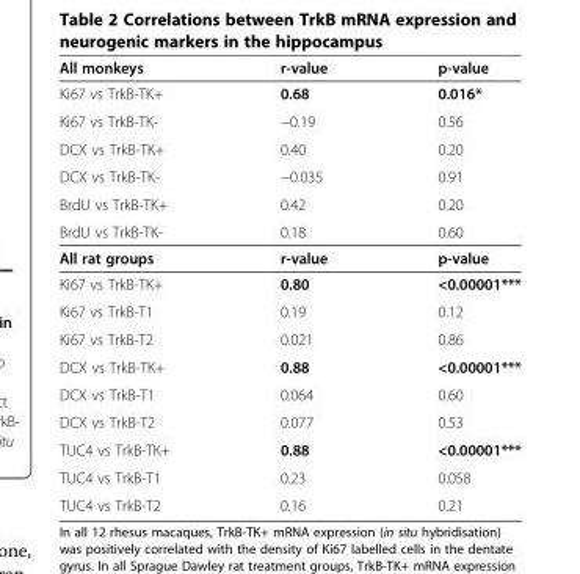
<table><tbody><tr><td>All monkeys</td><td>r-value</td><td>p-value</td></tr><tr><td>Ki67 vs TrkB-TK+</td><td>0.68</td><td>0.016*</td></tr><tr><td>Ki67 vs TrkB-TK-</td><td>−0.19</td><td>0.56</td></tr><tr><td>DCX vs TrkB-TK+</td><td>0.40</td><td>0.20</td></tr><tr><td>DCX vs TrkB-TK-</td><td>−0.035</td><td>0.91</td></tr><tr><td>BrdU vs TrkB-TK+</td><td>0.42</td><td>0.20</td></tr><tr><td>BrdU vs TrkB-TK-</td><td>0.18</td><td>0.60</td></tr><tr><td>All rat groups</td><td>r-value</td><td>p-value</td></tr><tr><td>Ki67 vs TrkB-TK+</td><td>0.80</td><td>&lt;0.00001***</td></tr><tr><td>Ki67 vs TrkB-T1</td><td>0.19</td><td>0.12</td></tr><tr><td>Ki67 vs TrkB-T2</td><td>0.021</td><td>0.86</td></tr><tr><td>DCX vs TrkB-TK+</td><td>0.88</td><td>&lt;0.00001***</td></tr><tr><td>DCX vs TrkB-T1</td><td>0.064</td><td>0.60</td></tr><tr><td>DCX vs TrkB-T2</td><td>0.077</td><td>0.53</td></tr><tr><td>TUC4 vs TrkB-TK+</td><td>0.88</td><td>&lt;0.00001***</td></tr><tr><td>TUC4 vs TrkB-T1</td><td>0.23</td><td>0.058</td></tr><tr><td>TUC4 vs TrkB-T2</td><td>0.16</td><td>0.21</td></tr></tbody></table>